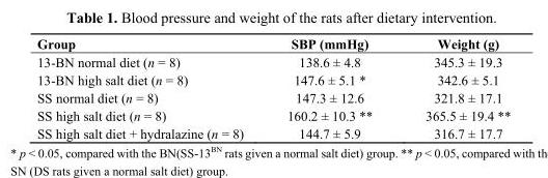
<table><thead><tr><td>Group</td><td>SBP (mmHg)</td><td>Weight (g)</td></tr></thead><tbody><tr><td>13-BN normal diet (n = 8)</td><td>138.6 ± 4.8</td><td>345.3 ± 19.3</td></tr><tr><td>13-BN high salt diet (n = 8)</td><td>147.6 ± 5.1 *</td><td>342.6 ± 5.1</td></tr><tr><td>SS normal diet (n = 8)</td><td>147.3 ± 12.6</td><td>321.8 ± 17.1</td></tr><tr><td>SS high salt diet (n = 8)</td><td>160.2 ± 10.3 **</td><td>365.5 ± 19.4 **</td></tr><tr><td>SS high salt diet + hydralazine (n = 8)</td><td>144.7 ± 5.9</td><td>316.7 ± 17.7</td></tr></tbody></table>